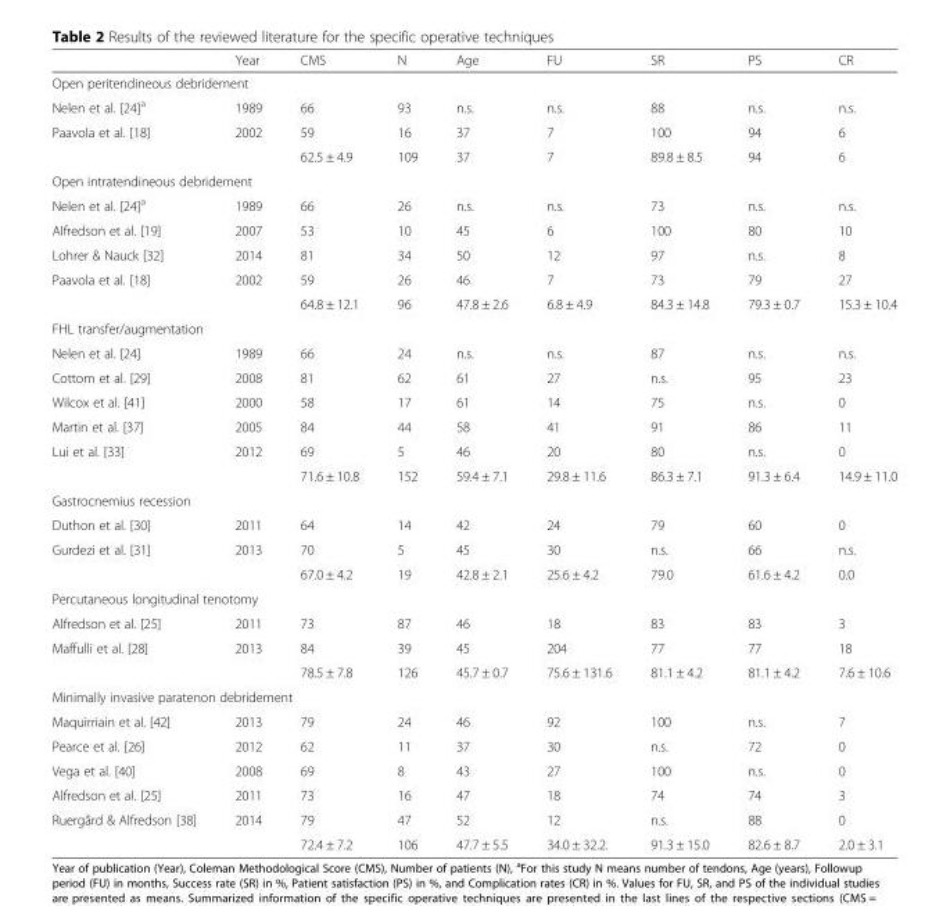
<table><thead><tr><td></td><td>Year</td><td>CMS</td><td>N</td><td>Age</td><td>FU</td><td>SR</td><td>PS</td><td>CR</td></tr></thead><tbody><tr><td colspan="9">Open peritendineous debridement</td></tr><tr><td>Nelen et al. [24]<sup>a</sup></td><td>1989</td><td>66</td><td>93</td><td>n.s.</td><td>n.s.</td><td>88</td><td>n.s.</td><td>n.s.</td></tr><tr><td rowspan="2">Paavola et al. [18]</td><td>2002</td><td>59</td><td>16</td><td>37</td><td>7</td><td>100</td><td>94</td><td>6</td></tr><tr><td></td><td>62.5 ± 4.9</td><td>109</td><td>37</td><td>7</td><td>89.8 ± 8.5</td><td>94</td><td>6</td></tr><tr><td colspan="9">Open intratendineous debridement</td></tr><tr><td>Nelen et al. [24]<sup>a</sup></td><td>1989</td><td>66</td><td>26</td><td>n.s.</td><td>n.s.</td><td>73</td><td>n.s.</td><td>n.s.</td></tr><tr><td>Alfredson et al. [19]</td><td>2007</td><td>53</td><td>10</td><td>45</td><td>6</td><td>100</td><td>80</td><td>10</td></tr><tr><td>Lohrer &amp; Nauck [32]</td><td>2014</td><td>81</td><td>34</td><td>50</td><td>12</td><td>97</td><td>n.s.</td><td>8</td></tr><tr><td rowspan="2">Paavola et al. [18]</td><td>2002</td><td>59</td><td>26</td><td>46</td><td>7</td><td>73</td><td>79</td><td>27</td></tr><tr><td></td><td>64.8 ± 12.1</td><td>96</td><td>47.8 ± 2.6</td><td>6.8 ± 4.9</td><td>84.3 ± 14.8</td><td>79.3 ± 0.7</td><td>15.3 ± 10.4</td></tr><tr><td colspan="9">FHL transfer/augmentation</td></tr><tr><td>Nelen et al. [24]</td><td>1989</td><td>66</td><td>24</td><td>n.s.</td><td>n.s.</td><td>87</td><td>n.s.</td><td>n.s.</td></tr><tr><td>Cottom et al. [29]</td><td>2008</td><td>81</td><td>62</td><td>61</td><td>27</td><td>n.s.</td><td>95</td><td>23</td></tr><tr><td>Wilcox et al. [41]</td><td>2000</td><td>58</td><td>17</td><td>61</td><td>14</td><td>75</td><td>n.s.</td><td>0</td></tr><tr><td>Martin et al. [37]</td><td>2005</td><td>84</td><td>44</td><td>58</td><td>41</td><td>91</td><td>86</td><td>11</td></tr><tr><td rowspan="2">Lui et al. [33]</td><td>2012</td><td>69</td><td>5</td><td>46</td><td>20</td><td>80</td><td>n.s.</td><td>0</td></tr><tr><td></td><td>71.6 ± 10.8</td><td>152</td><td>59.4 ± 7.1</td><td>29.8 ± 11.6</td><td>86.3 ± 7.1</td><td>91.3 ± 6.4</td><td>14.9 ± 11.0</td></tr><tr><td colspan="9">Gastrocnemius recession</td></tr><tr><td>Duthon et al. [30]</td><td>2011</td><td>64</td><td>14</td><td>42</td><td>24</td><td>79</td><td>60</td><td>0</td></tr><tr><td rowspan="2">Gurdezi et al. [31]</td><td>2013</td><td>70</td><td>5</td><td>45</td><td>30</td><td>n.s.</td><td>66</td><td>n.s.</td></tr><tr><td></td><td>67.0 ± 4.2</td><td>19</td><td>42.8 ± 2.1</td><td>25.6 ± 4.2</td><td>79.0</td><td>61.6 ± 4.2</td><td>0.0</td></tr><tr><td colspan="9">Percutaneous longitudinal tenotomy</td></tr><tr><td>Alfredson et al. [25]</td><td>2011</td><td>73</td><td>87</td><td>46</td><td>18</td><td>83</td><td>83</td><td>3</td></tr><tr><td rowspan="2">Maffulli et al. [28]</td><td>2013</td><td>84</td><td>39</td><td>45</td><td>204</td><td>77</td><td>77</td><td>18</td></tr><tr><td></td><td>78.5 ± 7.8</td><td>126</td><td>45.7 ± 0.7</td><td>75.6 ± 131.6</td><td>81.1 ± 4.2</td><td>81.1 ± 4.2</td><td>7.6 ± 10.6</td></tr><tr><td colspan="9">Minimally invasive paratenon debridement</td></tr><tr><td>Maquirriain et al. [42]</td><td>2013</td><td>79</td><td>24</td><td>46</td><td>92</td><td>100</td><td>n.s.</td><td>7</td></tr><tr><td>Pearce et al. [26]</td><td>2012</td><td>62</td><td>11</td><td>37</td><td>30</td><td>n.s.</td><td>72</td><td>0</td></tr><tr><td>Vega et al. [40]</td><td>2008</td><td>69</td><td>8</td><td>43</td><td>27</td><td>100</td><td>n.s.</td><td>0</td></tr><tr><td>Alfredson et al. [25]</td><td>2011</td><td>73</td><td>16</td><td>47</td><td>18</td><td>74</td><td>74</td><td>3</td></tr><tr><td rowspan="2">Ruergård &amp; Alfredson [38]</td><td>2014</td><td>79</td><td>47</td><td>52</td><td>12</td><td>n.s.</td><td>88</td><td>0</td></tr><tr><td></td><td>72.4 ± 7.2</td><td>106</td><td>47.7 ± 5.5</td><td>34.0 ± 32.2.</td><td>91.3 ± 15.0</td><td>82.6 ± 8.7</td><td>2.0 ± 3.1</td></tr></tbody></table>